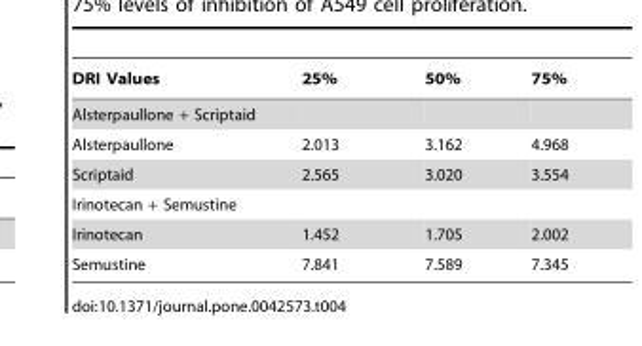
<table><thead><tr><td>DRI Values</td><td>25%</td><td>50%</td><td>75%</td></tr></thead><tbody><tr><td colspan="4">Alsterpaullone + Scriptaid</td></tr><tr><td>Alsterpaullone</td><td>2.013</td><td>3.162</td><td>4.968</td></tr><tr><td>Scriptaid</td><td>2.565</td><td>3.020</td><td>3.554</td></tr><tr><td colspan="4">Irinotecan + Semustine</td></tr><tr><td>Irinotecan</td><td>1.452</td><td>1.705</td><td>2.002</td></tr><tr><td>Semustine</td><td>7.841</td><td>7.589</td><td>7.345</td></tr></tbody></table>